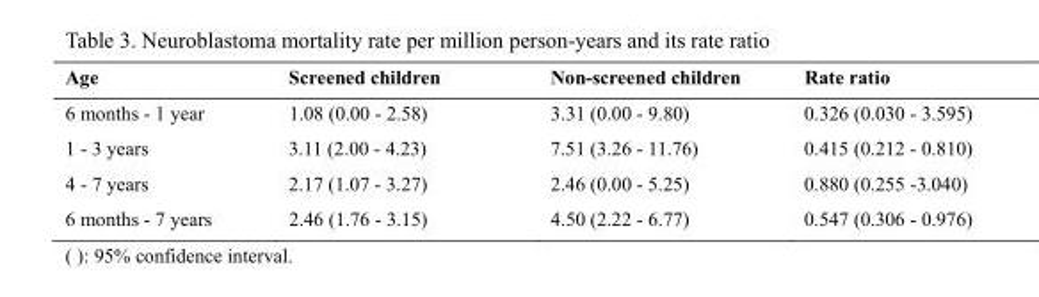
<table><thead><tr><td>Age</td><td>Screened children</td><td>Non-screened children</td><td>Rate ratio</td></tr></thead><tbody><tr><td>6 months - 1 year</td><td>1.08 (0.00 - 2.58)</td><td>3.31 (0.00 - 9.80)</td><td>0.326 (0.030 - 3.595)</td></tr><tr><td>1 - 3 years</td><td>3.11 (2.00 - 4.23)</td><td>7.51 (3.26 - 11.76)</td><td>0.415 (0.212 - 0.810)</td></tr><tr><td>4 - 7 years</td><td>2.17 (1.07 - 3.27)</td><td>2.46 (0.00 - 5.25)</td><td>0.880 (0.255 -3.040)</td></tr><tr><td>6 months - 7 years</td><td>2.46 (1.76 - 3.15)</td><td>4.50 (2.22 - 6.77)</td><td>0.547 (0.306 - 0.976)</td></tr></tbody></table>